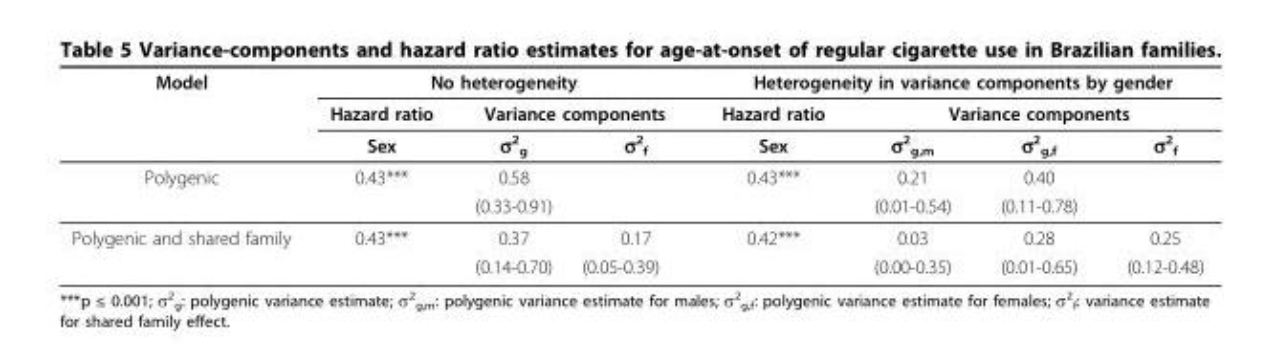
<table><thead><tr><td rowspan="3">Model</td><td colspan="3">No heterogeneity</td><td colspan="4">Heterogeneity in variance components by gender</td></tr><tr><td rowspan="2">Hazard ratio Sex</td><td colspan="2">Variance components</td><td rowspan="2">Hazard ratio Sex</td><td colspan="3">Variance components</td></tr><tr><td>σ<sup>2</sup> <sub>g</sub></td><td>σ<sup>2</sup> <sub>f</sub></td><td>σ<sup>2</sup> <sub>g,m</sub></td><td>σ<sup>2</sup> <sub>g,f</sub></td><td>σ<sup>2</sup> <sub>f</sub></td></tr></thead><tbody><tr><td rowspan="2">Polygenic</td><td>0.43***</td><td>0.58</td><td></td><td>0.43***</td><td>0.21</td><td>0.40</td><td></td></tr><tr><td></td><td>(0.33-0.91)</td><td></td><td></td><td>(0.01-0.54)</td><td>(0.11-0.78)</td><td></td></tr><tr><td rowspan="2">Polygenic and shared family</td><td>0.43***</td><td>0.37</td><td>0.17</td><td>0.42***</td><td>0.03</td><td>0.28</td><td>0.25</td></tr><tr><td></td><td>(0.14-0.70)</td><td>(0.05-0.39)</td><td></td><td>(0.00-0.35)</td><td>(0.01-0.65)</td><td>(0.12-0.48)</td></tr></tbody></table>